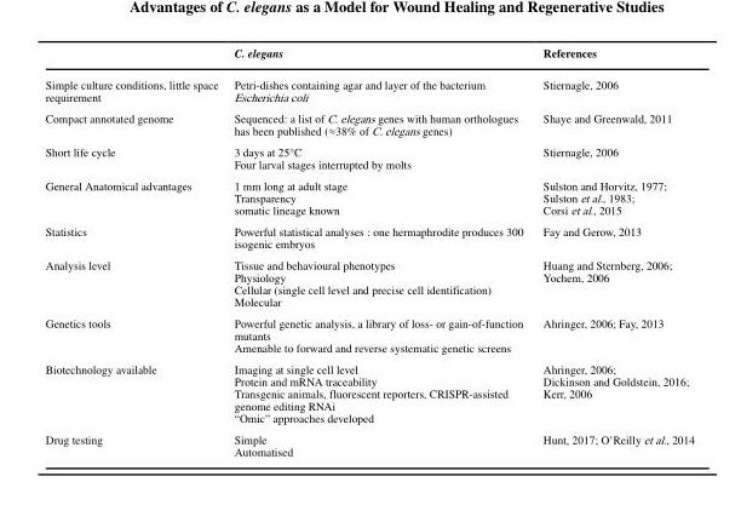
<table><thead><tr><td></td><td>C. elegans</td><td>References</td></tr></thead><tbody><tr><td>Simple culture conditions, little space requirement</td><td>Petri-dishes containing agar and layer of the bacterium Escherichia coli</td><td>Stiernagle, 2006</td></tr><tr><td>Compact annotated genome</td><td>Sequenced: a list of C. elegans genes with human orthologues has been published (≈38% of C. elegans genes)</td><td>Shaye and Greenwald, 2011</td></tr><tr><td>Short life cycle</td><td>3 days at 25°C Four larval stages interrupted by molts</td><td>Stiernagle, 2006</td></tr><tr><td>General Anatomical advantages</td><td>1 mm long at adult stage Transparency somatic lineage known</td><td>Sulston and Horvitz, 1977; Sulston et al., 1983; Corsi et al., 2015</td></tr><tr><td>Statistics</td><td>Powerful statistical analyses : one hermaphrodite produces 300 isogenic embryos</td><td>Fay and Gerow, 2013</td></tr><tr><td>Analysis level</td><td>Tissue and behavioural phenotypes Physiology Cellular (single cell level and precise cell identification) Molecular</td><td>Huang and Sternberg, 2006; Yochem, 2006</td></tr><tr><td>Genetics tools</td><td>Powerful genetic analysis, a library of loss- or gain-of-function mutants Amenable to forward and reverse systematic genetic screens</td><td>Ahringer, 2006; Fay, 2013</td></tr><tr><td>Biotechnology available</td><td>Imaging at single cell level Protein and mRNA traceability Transgenic animals, fluorescent reporters, CRISPR-assisted genome editing RNAi “Omic” approaches developed</td><td>Ahringer, 2006; Dickinson and Goldstein, 2016; Kerr, 2006</td></tr><tr><td>Drug testing</td><td>Simple Automatised</td><td>Hunt, 2017; O’Reilly et al., 2014</td></tr></tbody></table>